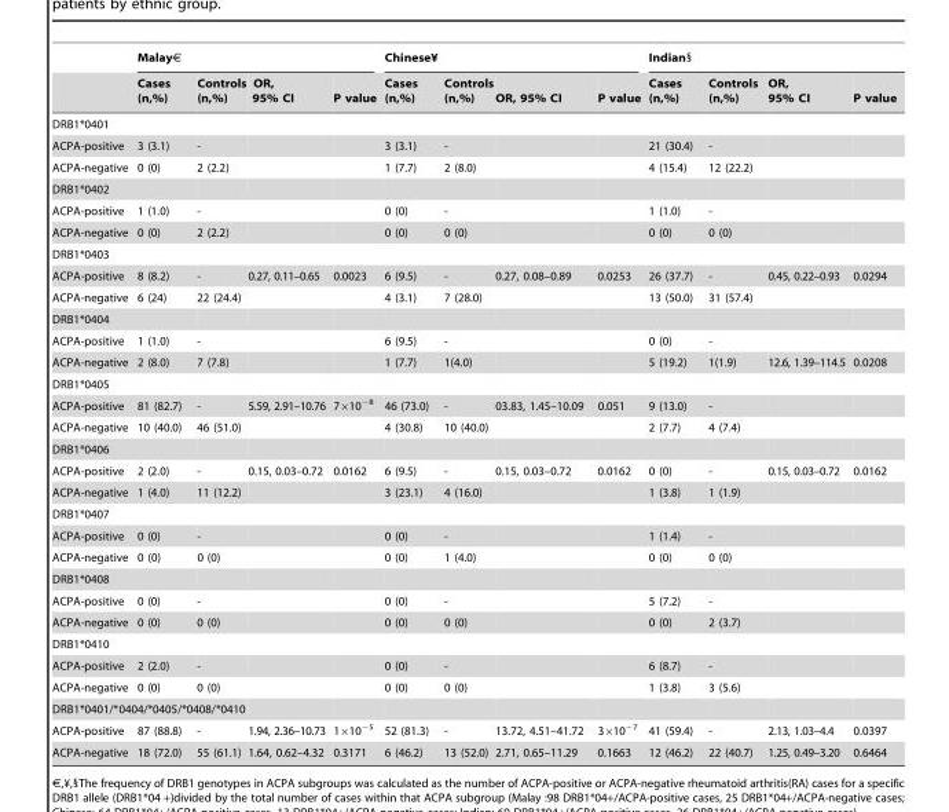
<table><thead><tr><td rowspan="2"></td><td colspan="4">Malay€</td><td colspan="4">Chinese¥</td><td colspan="4">Indian§</td></tr><tr><td>Cases (n,%)</td><td>Controls (n,%)</td><td>OR, 95% CI</td><td>P value</td><td>Cases (n,%)</td><td>Controls (n,%)</td><td>OR, 95% CI</td><td>P value</td><td>Cases (n,%)</td><td>Controls (n,%)</td><td>OR, 95% CI</td><td>P value</td></tr></thead><tbody><tr><td colspan="13">DRB1*0401</td></tr><tr><td>ACPA-positive</td><td>3 (3.1)</td><td>-</td><td></td><td></td><td>3 (3.1)</td><td>-</td><td></td><td></td><td>21 (30.4)</td><td>-</td><td></td><td></td></tr><tr><td>ACPA-negative</td><td>0 (0)</td><td>2 (2.2)</td><td></td><td></td><td>1 (7.7)</td><td>2 (8.0)</td><td></td><td></td><td>4 (15.4)</td><td>12 (22.2)</td><td></td><td></td></tr><tr><td colspan="13">DRB1*0402</td></tr><tr><td>ACPA-positive</td><td>1 (1.0)</td><td>-</td><td></td><td></td><td>0 (0)</td><td>-</td><td></td><td></td><td>1 (1.0)</td><td>-</td><td></td><td></td></tr><tr><td>ACPA-negative</td><td>0 (0)</td><td>2 (2.2)</td><td></td><td></td><td>0 (0)</td><td>0 (0)</td><td></td><td></td><td>0 (0)</td><td>0 (0)</td><td></td><td></td></tr><tr><td colspan="13">DRB1*0403</td></tr><tr><td>ACPA-positive</td><td>8 (8.2)</td><td>-</td><td>0.27, 0.11–0.65</td><td>0.0023</td><td>6 (9.5)</td><td>-</td><td>0.27, 0.08–0.89</td><td>0.0253</td><td>26 (37.7)</td><td>-</td><td>0.45, 0.22–0.93</td><td>0.0294</td></tr><tr><td>ACPA-negative</td><td>6 (24)</td><td>22 (24.4)</td><td></td><td></td><td>4 (3.1)</td><td>7 (28.0)</td><td></td><td></td><td>13 (50.0)</td><td>31 (57.4)</td><td></td><td></td></tr><tr><td colspan="13">DRB1*0404</td></tr><tr><td>ACPA-positive</td><td>1 (1.0)</td><td>-</td><td></td><td></td><td>6 (9.5)</td><td>-</td><td></td><td></td><td>0 (0)</td><td>-</td><td></td><td></td></tr><tr><td>ACPA-negative</td><td>2 (8.0)</td><td>7 (7.8)</td><td></td><td></td><td>1 (7.7)</td><td>1(4.0)</td><td></td><td></td><td>5 (19.2)</td><td>1(1.9)</td><td>12.6, 1.39–114.5</td><td>0.0208</td></tr><tr><td colspan="13">DRB1*0405</td></tr><tr><td>ACPA-positive</td><td>81 (82.7)</td><td>-</td><td>5.59, 2.91–10.76</td><td>7×10<sup>−8</sup></td><td>46 (73.0)</td><td>-</td><td>03.83, 1.45–10.09</td><td>0.051</td><td>9 (13.0)</td><td>-</td><td></td><td></td></tr><tr><td>ACPA-negative</td><td>10 (40.0)</td><td>46 (51.0)</td><td></td><td></td><td>4 (30.8)</td><td>10 (40.0)</td><td></td><td></td><td>2 (7.7)</td><td>4 (7.4)</td><td></td><td></td></tr><tr><td colspan="13">DRB1*0406</td></tr><tr><td>ACPA-positive</td><td>2 (2.0)</td><td>-</td><td>0.15, 0.03–0.72</td><td>0.0162</td><td>6 (9.5)</td><td>-</td><td>0.15, 0.03–0.72</td><td>0.0162</td><td>0 (0)</td><td>-</td><td>0.15, 0.03–0.72</td><td>0.0162</td></tr><tr><td>ACPA-negative</td><td>1 (4.0)</td><td>11 (12.2)</td><td></td><td></td><td>3 (23.1)</td><td>4 (16.0)</td><td></td><td></td><td>1 (3.8)</td><td>1 (1.9)</td><td></td><td></td></tr><tr><td colspan="13">DRB1*0407</td></tr><tr><td>ACPA-positive</td><td>0 (0)</td><td>-</td><td></td><td></td><td>0 (0)</td><td>-</td><td></td><td></td><td>1 (1.4)</td><td>-</td><td></td><td></td></tr><tr><td>ACPA-negative</td><td>0 (0)</td><td>0 (0)</td><td></td><td></td><td>0 (0)</td><td>1 (4.0)</td><td></td><td></td><td>0 (0)</td><td>0 (0)</td><td></td><td></td></tr><tr><td colspan="13">DRB1*0408</td></tr><tr><td>ACPA-positive</td><td>0 (0)</td><td>-</td><td></td><td></td><td>0 (0)</td><td>-</td><td></td><td></td><td>5 (7.2)</td><td>-</td><td></td><td></td></tr><tr><td>ACPA-negative</td><td>0 (0)</td><td>0 (0)</td><td></td><td></td><td>0 (0)</td><td>0 (0)</td><td></td><td></td><td>0 (0)</td><td>2 (3.7)</td><td></td><td></td></tr><tr><td colspan="13">DRB1*0410</td></tr><tr><td>ACPA-positive</td><td>2 (2.0)</td><td>-</td><td></td><td></td><td>0 (0)</td><td>-</td><td></td><td></td><td>6 (8.7)</td><td>-</td><td></td><td></td></tr><tr><td>ACPA-negative</td><td>0 (0)</td><td>0 (0)</td><td></td><td></td><td>0 (0)</td><td>0 (0)</td><td></td><td></td><td>1 (3.8)</td><td>3 (5.6)</td><td></td><td></td></tr><tr><td colspan="13">DRB1*0401/*0404/*0405/*0408/*0410</td></tr><tr><td>ACPA-positive</td><td>87 (88.8)</td><td>-</td><td>1.94, 2.36–10.73</td><td>1×10<sup>−5</sup></td><td>52 (81.3)</td><td>-</td><td>13.72, 4.51–41.72</td><td>3×10<sup>−7</sup></td><td>41 (59.4)</td><td>-</td><td>2.13, 1.03–4.4</td><td>0.0397</td></tr><tr><td>ACPA-negative</td><td>18 (72.0)</td><td>55 (61.1)</td><td>1.64, 0.62–4.32</td><td>0.3171</td><td>6 (46.2)</td><td>13 (52.0)</td><td>2.71, 0.65–11.29</td><td>0.1663</td><td>12 (46.2)</td><td>22 (40.7)</td><td>1.25, 0.49–3.20</td><td>0.6464</td></tr></tbody></table>